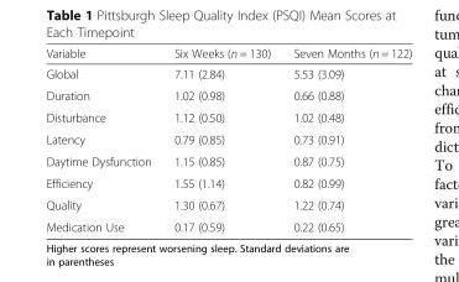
<table><thead><tr><td>Variable</td><td>Six Weeks (n = 130)</td><td>Seven Months (n = 122)</td></tr></thead><tbody><tr><td>Global</td><td>7.11 (2.84)</td><td>5.53 (3.09)</td></tr><tr><td>Duration</td><td>1.02 (0.98)</td><td>0.66 (0.88)</td></tr><tr><td>Disturbance</td><td>1.12 (0.50)</td><td>1.02 (0.48)</td></tr><tr><td>Latency</td><td>0.79 (0.85)</td><td>0.73 (0.91)</td></tr><tr><td>Daytime Dysfunction</td><td>1.15 (0.85)</td><td>0.87 (0.75)</td></tr><tr><td>Efficiency</td><td>1.55 (1.14)</td><td>0.82 (0.99)</td></tr><tr><td>Quality</td><td>1.30 (0.67)</td><td>1.22 (0.74)</td></tr><tr><td>Medication Use</td><td>0.17 (0.59)</td><td>0.22 (0.65)</td></tr></tbody></table>